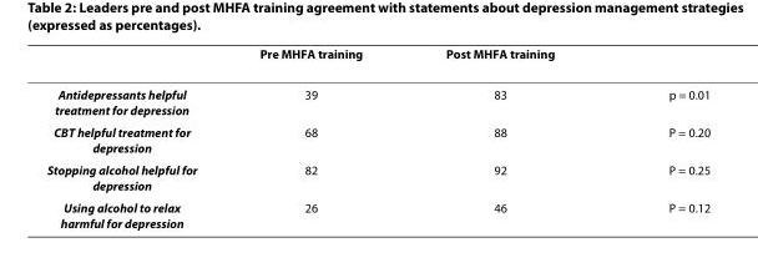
<table><thead><tr><td></td><td>Pre MHFA training</td><td>Post MHFA training</td><td></td></tr></thead><tbody><tr><td>Antidepressants helpful treatment for depression</td><td>39</td><td>83</td><td>p = 0.01</td></tr><tr><td>CBT helpful treatment for depression</td><td>68</td><td>88</td><td>P = 0.20</td></tr><tr><td>Stopping alcohol helpful for depression</td><td>82</td><td>92</td><td>P = 0.25</td></tr><tr><td>Using alcohol to relax harmful for depression</td><td>26</td><td>46</td><td>P = 0.12</td></tr></tbody></table>